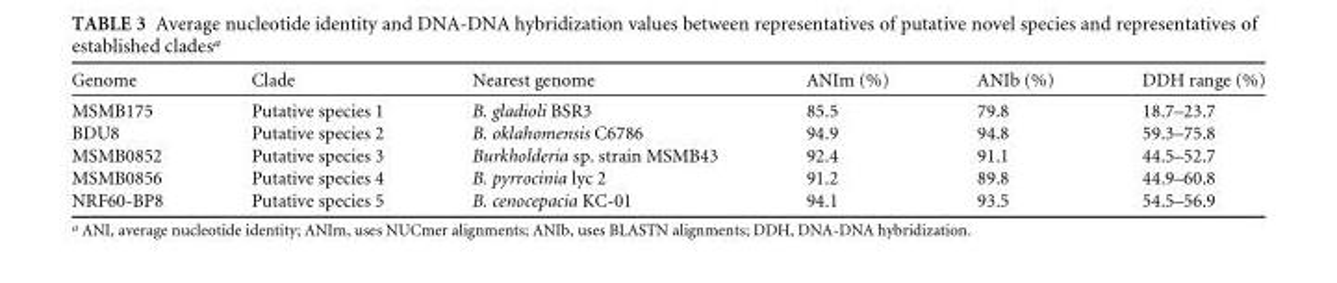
<table><thead><tr><td>Genome</td><td>Clade</td><td>Nearest genome</td><td>ANIm (%)</td><td>ANIb (%)</td><td>DDH range (%)</td></tr></thead><tbody><tr><td>MSMB175</td><td>Putative species 1</td><td>B. gladioli BSR3</td><td>85.5</td><td>79.8</td><td>18.7–23.7</td></tr><tr><td>BDU8</td><td>Putative species 2</td><td>B. oklahomensis C6786</td><td>94.9</td><td>94.8</td><td>59.3–75.8</td></tr><tr><td>MSMB0852</td><td>Putative species 3</td><td>Burkholderia sp. strain MSMB43</td><td>92.4</td><td>91.1</td><td>44.5–52.7</td></tr><tr><td>MSMB0856</td><td>Putative species 4</td><td>B. pyrrocinia lyc 2</td><td>91.2</td><td>89.8</td><td>44.9–60.8</td></tr><tr><td>NRF60-BP8</td><td>Putative species 5</td><td>B. cenocepacia KC-01</td><td>94.1</td><td>93.5</td><td>54.5–56.9</td></tr></tbody></table>